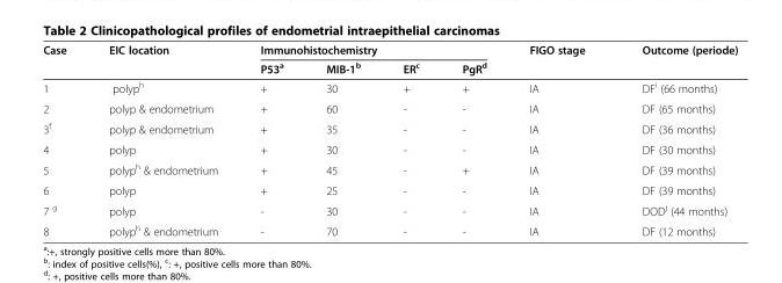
<table><thead><tr><td rowspan="2">Case</td><td rowspan="2">EIC location</td><td colspan="4">Immunohistochemistry</td><td rowspan="2">FIGO stage</td><td rowspan="2">Outcome (periode)</td></tr><tr><td>P53<sup>a</sup></td><td>MIB-1<sup>b</sup></td><td>ER<sup>c</sup></td><td>PgR<sup>d</sup></td></tr></thead><tbody><tr><td>1</td><td>polyp<sup>h</sup></td><td>+</td><td>30</td><td>+</td><td>+</td><td>IA</td><td>DF<sup>i</sup> (66 months)</td></tr><tr><td>2</td><td>polyp &amp; endometrium</td><td>+</td><td>60</td><td>-</td><td>-</td><td>IA</td><td>DF (65 months)</td></tr><tr><td>3<sup>f</sup></td><td>polyp &amp; endometrium</td><td>+</td><td>35</td><td>-</td><td>-</td><td>IA</td><td>DF (36 months)</td></tr><tr><td>4</td><td>polyp</td><td>+</td><td>30</td><td>-</td><td>-</td><td>IA</td><td>DF (30 months)</td></tr><tr><td>5</td><td>polyp<sup>h</sup> &amp; endometrium</td><td>+</td><td>45</td><td>-</td><td>+</td><td>IA</td><td>DF (39 months)</td></tr><tr><td>6</td><td>polyp</td><td>+</td><td>25</td><td>-</td><td>-</td><td>IA</td><td>DF (39 months)</td></tr><tr><td>7 <sup>g</sup></td><td>polyp</td><td>-</td><td>30</td><td>-</td><td>-</td><td>IA</td><td>DOD<sup>j</sup> (44 months)</td></tr><tr><td>8</td><td>polyp<sup>h</sup> &amp; endometrium</td><td>-</td><td>70</td><td>-</td><td>-</td><td>IA</td><td>DF (12 months)</td></tr></tbody></table>